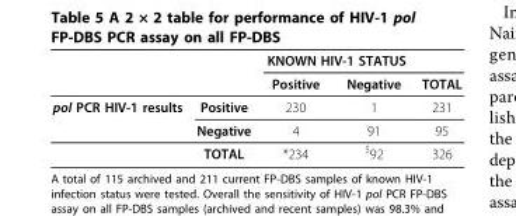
<table><thead><tr><td rowspan="2"></td><td rowspan="2"></td><td colspan="2">KNOWN HIV-1 STATUS</td><td rowspan="2">TOTAL</td></tr><tr><td>Positive</td><td>Negative</td></tr></thead><tbody><tr><td rowspan="3">pol PCR HIV-1 results</td><td>Positive</td><td>230</td><td>1</td><td>231</td></tr><tr><td>Negative</td><td>4</td><td>91</td><td>95</td></tr><tr><td>TOTAL</td><td>*234</td><td><sup>$</sup>92</td><td>326</td></tr></tbody></table>